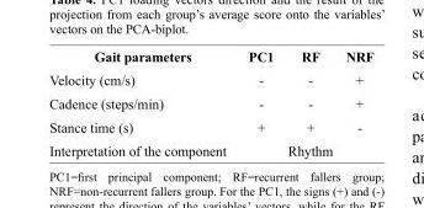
<table><thead><tr><td>Gait parameters</td><td>PC1</td><td>RF</td><td>NRF</td></tr></thead><tbody><tr><td>Velocity (cm/s)</td><td>-</td><td>-</td><td>+</td></tr><tr><td>Cadence (steps/min)</td><td>-</td><td>-</td><td>+</td></tr><tr><td>Stance time (s)</td><td>+</td><td>+</td><td>-</td></tr><tr><td>Interpretation of the component</td><td colspan="3">Rhythm</td></tr></tbody></table>